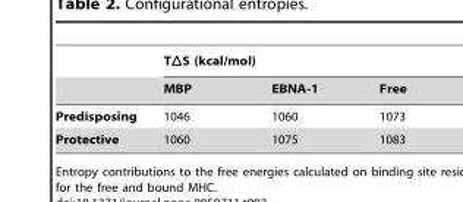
<table><thead><tr><td rowspan="2"></td><td colspan="3">T▵S (kcal/mol)</td></tr><tr><td>MBP</td><td>EBNA-1</td><td>Free</td></tr></thead><tbody><tr><td>Predisposing</td><td>1046</td><td>1060</td><td>1073</td></tr><tr><td>Protective</td><td>1060</td><td>1075</td><td>1083</td></tr></tbody></table>